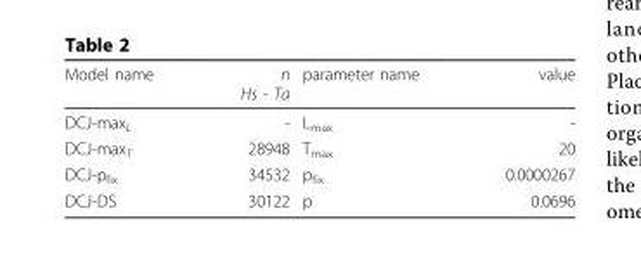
<table><thead><tr><td>Model name</td><td>n Hs - Ta</td><td>parameter name</td><td>value</td></tr></thead><tbody><tr><td>DCJ-max<sub>L</sub></td><td>-</td><td>L<sub>max</sub></td><td>-</td></tr><tr><td>DCJ-max<sub>T</sub></td><td>28948</td><td>T<sub>max</sub></td><td>20</td></tr><tr><td>DCJ-p<sub>fix</sub></td><td>34532</td><td>p<sub>fix</sub></td><td>0.0000267</td></tr><tr><td>DCJ-DS</td><td>30122</td><td>p</td><td>0.0696</td></tr></tbody></table>